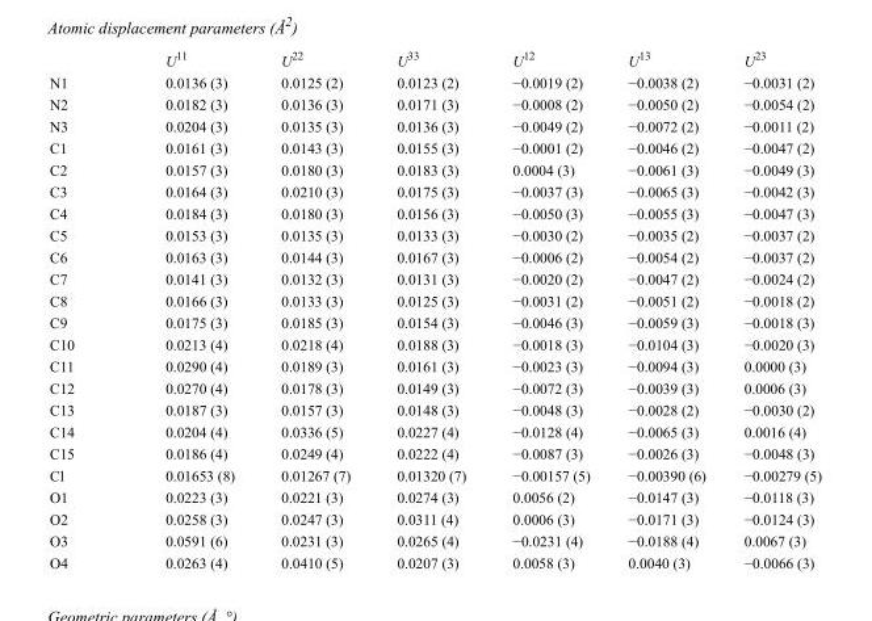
<table><thead><tr><td></td><td>U<sup>11</sup></td><td>U<sup>22</sup></td><td>U<sup>33</sup></td><td>U<sup>12</sup></td><td>U<sup>13</sup></td><td>U<sup>23</sup></td></tr></thead><tbody><tr><td>N1</td><td>0.0136 (3)</td><td>0.0125 (2)</td><td>0.0123 (2)</td><td>−0.0019 (2)</td><td>−0.0038 (2)</td><td>−0.0031 (2)</td></tr><tr><td>N2</td><td>0.0182 (3)</td><td>0.0136 (3)</td><td>0.0171 (3)</td><td>−0.0008 (2)</td><td>−0.0050 (2)</td><td>−0.0054 (2)</td></tr><tr><td>N3</td><td>0.0204 (3)</td><td>0.0135 (3)</td><td>0.0136 (3)</td><td>−0.0049 (2)</td><td>−0.0072 (2)</td><td>−0.0011 (2)</td></tr><tr><td>C1</td><td>0.0161 (3)</td><td>0.0143 (3)</td><td>0.0155 (3)</td><td>−0.0001 (2)</td><td>−0.0046 (2)</td><td>−0.0047 (2)</td></tr><tr><td>C2</td><td>0.0157 (3)</td><td>0.0180 (3)</td><td>0.0183 (3)</td><td>0.0004 (3)</td><td>−0.0061 (3)</td><td>−0.0049 (3)</td></tr><tr><td>C3</td><td>0.0164 (3)</td><td>0.0210 (3)</td><td>0.0175 (3)</td><td>−0.0037 (3)</td><td>−0.0065 (3)</td><td>−0.0042 (3)</td></tr><tr><td>C4</td><td>0.0184 (3)</td><td>0.0180 (3)</td><td>0.0156 (3)</td><td>−0.0050 (3)</td><td>−0.0055 (3)</td><td>−0.0047 (3)</td></tr><tr><td>C5</td><td>0.0153 (3)</td><td>0.0135 (3)</td><td>0.0133 (3)</td><td>−0.0030 (2)</td><td>−0.0035 (2)</td><td>−0.0037 (2)</td></tr><tr><td>C6</td><td>0.0163 (3)</td><td>0.0144 (3)</td><td>0.0167 (3)</td><td>−0.0006 (2)</td><td>−0.0054 (2)</td><td>−0.0037 (2)</td></tr><tr><td>C7</td><td>0.0141 (3)</td><td>0.0132 (3)</td><td>0.0131 (3)</td><td>−0.0020 (2)</td><td>−0.0047 (2)</td><td>−0.0024 (2)</td></tr><tr><td>C8</td><td>0.0166 (3)</td><td>0.0133 (3)</td><td>0.0125 (3)</td><td>−0.0031 (2)</td><td>−0.0051 (2)</td><td>−0.0018 (2)</td></tr><tr><td>C9</td><td>0.0175 (3)</td><td>0.0185 (3)</td><td>0.0154 (3)</td><td>−0.0046 (3)</td><td>−0.0059 (3)</td><td>−0.0018 (3)</td></tr><tr><td>C10</td><td>0.0213 (4)</td><td>0.0218 (4)</td><td>0.0188 (3)</td><td>−0.0018 (3)</td><td>−0.0104 (3)</td><td>−0.0020 (3)</td></tr><tr><td>C11</td><td>0.0290 (4)</td><td>0.0189 (3)</td><td>0.0161 (3)</td><td>−0.0023 (3)</td><td>−0.0094 (3)</td><td>0.0000 (3)</td></tr><tr><td>C12</td><td>0.0270 (4)</td><td>0.0178 (3)</td><td>0.0149 (3)</td><td>−0.0072 (3)</td><td>−0.0039 (3)</td><td>0.0006 (3)</td></tr><tr><td>C13</td><td>0.0187 (3)</td><td>0.0157 (3)</td><td>0.0148 (3)</td><td>−0.0048 (3)</td><td>−0.0028 (2)</td><td>−0.0030 (2)</td></tr><tr><td>C14</td><td>0.0204 (4)</td><td>0.0336 (5)</td><td>0.0227 (4)</td><td>−0.0128 (4)</td><td>−0.0065 (3)</td><td>0.0016 (4)</td></tr><tr><td>C15</td><td>0.0186 (4)</td><td>0.0249 (4)</td><td>0.0222 (4)</td><td>−0.0087 (3)</td><td>−0.0026 (3)</td><td>−0.0048 (3)</td></tr><tr><td>Cl</td><td>0.01653 (8)</td><td>0.01267 (7)</td><td>0.01320 (7)</td><td>−0.00157 (5)</td><td>−0.00390 (6)</td><td>−0.00279 (5)</td></tr><tr><td>O1</td><td>0.0223 (3)</td><td>0.0221 (3)</td><td>0.0274 (3)</td><td>0.0056 (2)</td><td>−0.0147 (3)</td><td>−0.0118 (3)</td></tr><tr><td>O2</td><td>0.0258 (3)</td><td>0.0247 (3)</td><td>0.0311 (4)</td><td>0.0006 (3)</td><td>−0.0171 (3)</td><td>−0.0124 (3)</td></tr><tr><td>O3</td><td>0.0591 (6)</td><td>0.0231 (3)</td><td>0.0265 (4)</td><td>−0.0231 (4)</td><td>−0.0188 (4)</td><td>0.0067 (3)</td></tr><tr><td>O4</td><td>0.0263 (4)</td><td>0.0410 (5)</td><td>0.0207 (3)</td><td>0.0058 (3)</td><td>0.0040 (3)</td><td>−0.0066 (3)</td></tr></tbody></table>